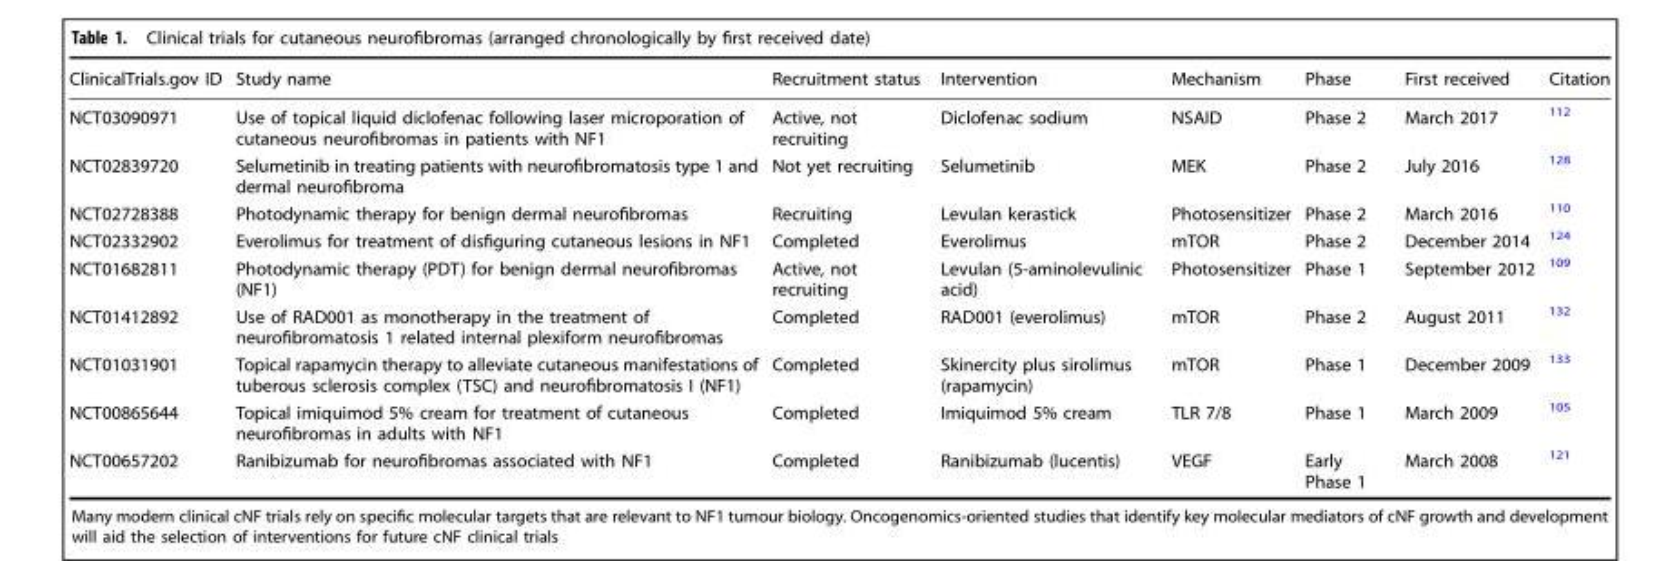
<table><thead><tr><td>ClinicalTrials.gov ID</td><td>Study name</td><td>Recruitment status</td><td>Intervention</td><td>Mechanism</td><td>Phase</td><td>First received</td><td>Citation</td></tr></thead><tbody><tr><td>NCT03090971</td><td>Use of topical liquid diclofenac following laser microporation of cutaneous neurofibromas in patients with NF1</td><td>Active, not recruiting</td><td>Diclofenac sodium</td><td>NSAID</td><td>Phase 2</td><td>March 2017</td><td><sup>112</sup></td></tr><tr><td>NCT02839720</td><td>Selumetinib in treating patients with neurofibromatosis type 1 and dermal neurofibroma</td><td>Not yet recruiting</td><td>Selumetinib</td><td>MEK</td><td>Phase 2</td><td>July 2016</td><td><sup>128</sup></td></tr><tr><td>NCT02728388</td><td>Photodynamic therapy for benign dermal neurofibromas</td><td>Recruiting</td><td>Levulan kerastick</td><td>Photosensitizer</td><td>Phase 2</td><td>March 2016</td><td><sup>110</sup></td></tr><tr><td>NCT02332902</td><td>Everolimus for treatment of disfiguring cutaneous lesions in NF1</td><td>Completed</td><td>Everolimus</td><td>mTOR</td><td>Phase 2</td><td>December 2014</td><td><sup>124</sup></td></tr><tr><td>NCT01682811</td><td>Photodynamic therapy (PDT) for benign dermal neurofibromas (NF1)</td><td>Active, not recruiting</td><td>Levulan (5-aminolevulinic acid)</td><td>Photosensitizer</td><td>Phase 1</td><td>September 2012</td><td><sup>109</sup></td></tr><tr><td>NCT01412892</td><td>Use of RAD001 as monotherapy in the treatment of neurofibromatosis 1 related internal plexiform neurofibromas</td><td>Completed</td><td>RAD001 (everolimus)</td><td>mTOR</td><td>Phase 2</td><td>August 2011</td><td><sup>132</sup></td></tr><tr><td>NCT01031901</td><td>Topical rapamycin therapy to alleviate cutaneous manifestations of tuberous sclerosis complex (TSC) and neurofibromatosis I (NF1)</td><td>Completed</td><td>Skinercity plus sirolimus (rapamycin)</td><td>mTOR</td><td>Phase 1</td><td>December 2009</td><td><sup>133</sup></td></tr><tr><td>NCT00865644</td><td>Topical imiquimod 5% cream for treatment of cutaneous neurofibromas in adults with NF1</td><td>Completed</td><td>Imiquimod 5% cream</td><td>TLR 7/8</td><td>Phase 1</td><td>March 2009</td><td><sup>105</sup></td></tr><tr><td>NCT00657202</td><td>Ranibizumab for neurofibromas associated with NF1</td><td>Completed</td><td>Ranibizumab (lucentis)</td><td>VEGF</td><td>Early Phase 1</td><td>March 2008</td><td><sup>121</sup></td></tr></tbody></table>